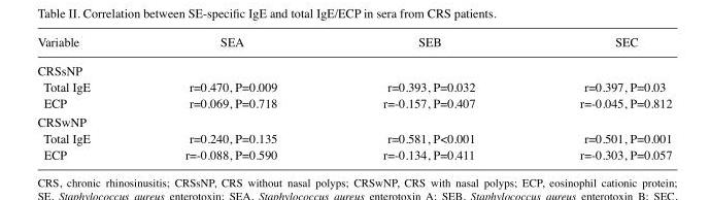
<table><thead><tr><td>Variable</td><td>SEA</td><td>SEB</td><td>SEC</td></tr></thead><tbody><tr><td colspan="4">CRSsNP</td></tr><tr><td>Total IgE</td><td>r=0.470, P=0.009</td><td>r=0.393, P=0.032</td><td>r=0.397, P=0.03</td></tr><tr><td>ECP</td><td>r=0.069, P=0.718</td><td>r=-0.157, P=0.407</td><td>r=-0.045, P=0.812</td></tr><tr><td colspan="4">CRSwNP</td></tr><tr><td>Total IgE</td><td>r=0.240, P=0.135</td><td>r=0.581, P&lt;0.001</td><td>r=0.501, P=0.001</td></tr><tr><td>ECP</td><td>r=-0.088, P=0.590</td><td>r=-0.134, P=0.411</td><td>r=-0.303, P=0.057</td></tr></tbody></table>